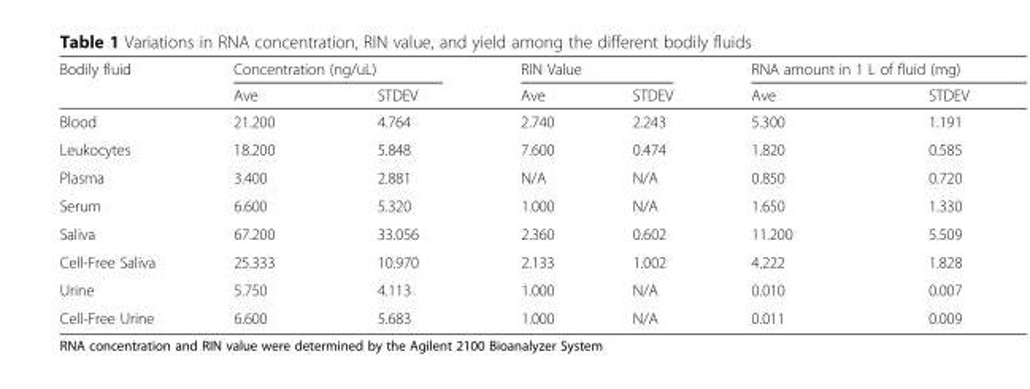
<table><thead><tr><td rowspan="2">Bodily fluid</td><td colspan="2">Concentration (ng/uL)</td><td colspan="2">RIN Value</td><td colspan="2">RNA amount in 1 L of fluid (mg)</td></tr><tr><td>Ave</td><td>STDEV</td><td>Ave</td><td>STDEV</td><td>Ave</td><td>STDEV</td></tr></thead><tbody><tr><td>Blood</td><td>21.200</td><td>4.764</td><td>2.740</td><td>2.243</td><td>5.300</td><td>1.191</td></tr><tr><td>Leukocytes</td><td>18.200</td><td>5.848</td><td>7.600</td><td>0.474</td><td>1.820</td><td>0.585</td></tr><tr><td>Plasma</td><td>3.400</td><td>2.881</td><td>N/A</td><td>N/A</td><td>0.850</td><td>0.720</td></tr><tr><td>Serum</td><td>6.600</td><td>5.320</td><td>1.000</td><td>N/A</td><td>1.650</td><td>1.330</td></tr><tr><td>Saliva</td><td>67.200</td><td>33.056</td><td>2.360</td><td>0.602</td><td>11.200</td><td>5.509</td></tr><tr><td>Cell-Free Saliva</td><td>25.333</td><td>10.970</td><td>2.133</td><td>1.002</td><td>4.222</td><td>1.828</td></tr><tr><td>Urine</td><td>5.750</td><td>4.113</td><td>1.000</td><td>N/A</td><td>0.010</td><td>0.007</td></tr><tr><td>Cell-Free Urine</td><td>6.600</td><td>5.683</td><td>1.000</td><td>N/A</td><td>0.011</td><td>0.009</td></tr></tbody></table>